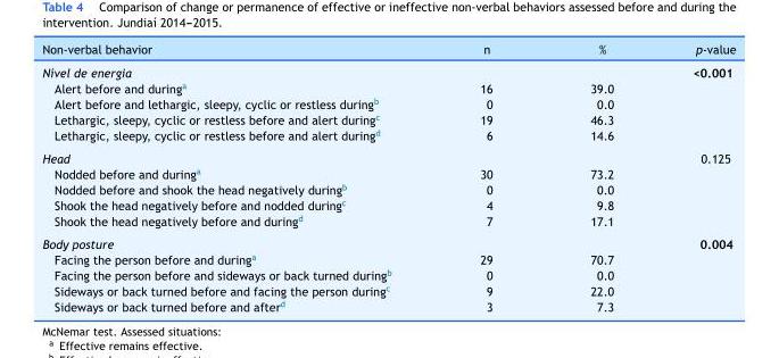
<table><thead><tr><td>Non-verbal behavior</td><td>n</td><td>%</td><td>p-value</td></tr></thead><tbody><tr><td>Nível de energia</td><td></td><td></td><td>&lt;0.001</td></tr><tr><td>Alert before and during<sup>a</sup></td><td>16</td><td>39.0</td><td></td></tr><tr><td>Alert before and lethargic, sleepy, cyclic or restless during<sup>b</sup></td><td>0</td><td>0.0</td><td></td></tr><tr><td>Lethargic, sleepy, cyclic or restless before and alert during<sup>c</sup></td><td>19</td><td>46.3</td><td></td></tr><tr><td>Lethargic, sleepy, cyclic or restless before and alert during<sup>d</sup></td><td>6</td><td>14.6</td><td></td></tr><tr><td>Head</td><td></td><td></td><td>0.125</td></tr><tr><td>Nodded before and during<sup>a</sup></td><td>30</td><td>73.2</td><td></td></tr><tr><td>Nodded before and shook the head negatively during<sup>b</sup></td><td>0</td><td>0.0</td><td></td></tr><tr><td>Shook the head negatively before and nodded during<sup>c</sup></td><td>4</td><td>9.8</td><td></td></tr><tr><td>Shook the head negatively before and during<sup>d</sup></td><td>7</td><td>17.1</td><td></td></tr><tr><td>Body posture</td><td></td><td></td><td>0.004</td></tr><tr><td>Facing the person before and during<sup>a</sup></td><td>29</td><td>70.7</td><td></td></tr><tr><td>Facing the person before and sideways or back turned during<sup>b</sup></td><td>0</td><td>0.0</td><td></td></tr><tr><td>Sideways or back turned before and facing the person during<sup>c</sup></td><td>9</td><td>22.0</td><td></td></tr><tr><td>Sideways or back turned before and after<sup>d</sup></td><td>3</td><td>7.3</td><td></td></tr></tbody></table>